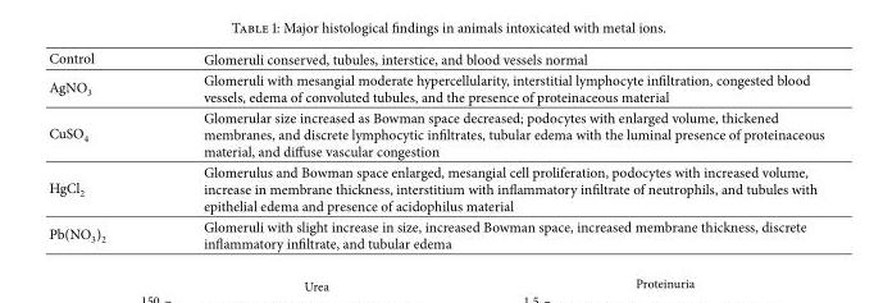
<table><tbody><tr><td>Control</td><td>Glomeruli conserved, tubules, interstice, and blood vessels normal</td></tr><tr><td>AgNO<sub>3</sub></td><td>Glomeruli with mesangial moderate hypercellularity, interstitial lymphocyte infiltration, congested blood vessels, edema of convoluted tubules, and the presence of proteinaceous material</td></tr><tr><td>CuSO<sub>4</sub></td><td>Glomerular size increased as Bowman space decreased; podocytes with enlarged volume, thickened membranes, and discrete lymphocytic infiltrates, tubular edema with the luminal presence of proteinaceous material, and diffuse vascular congestion</td></tr><tr><td>HgCl<sub>2</sub></td><td>Glomerulus and Bowman space enlarged, mesangial cell proliferation, podocytes with increased volume, increase in membrane thickness, interstitium with inflammatory infiltrate of neutrophils, and tubules with epithelial edema and presence of acidophilus material</td></tr><tr><td>Pb(NO<sub>3</sub>)<sub>2</sub></td><td>Glomeruli with slight increase in size, increased Bowman space, increased membrane thickness, discrete inflammatory infiltrate, and tubular edema</td></tr></tbody></table>